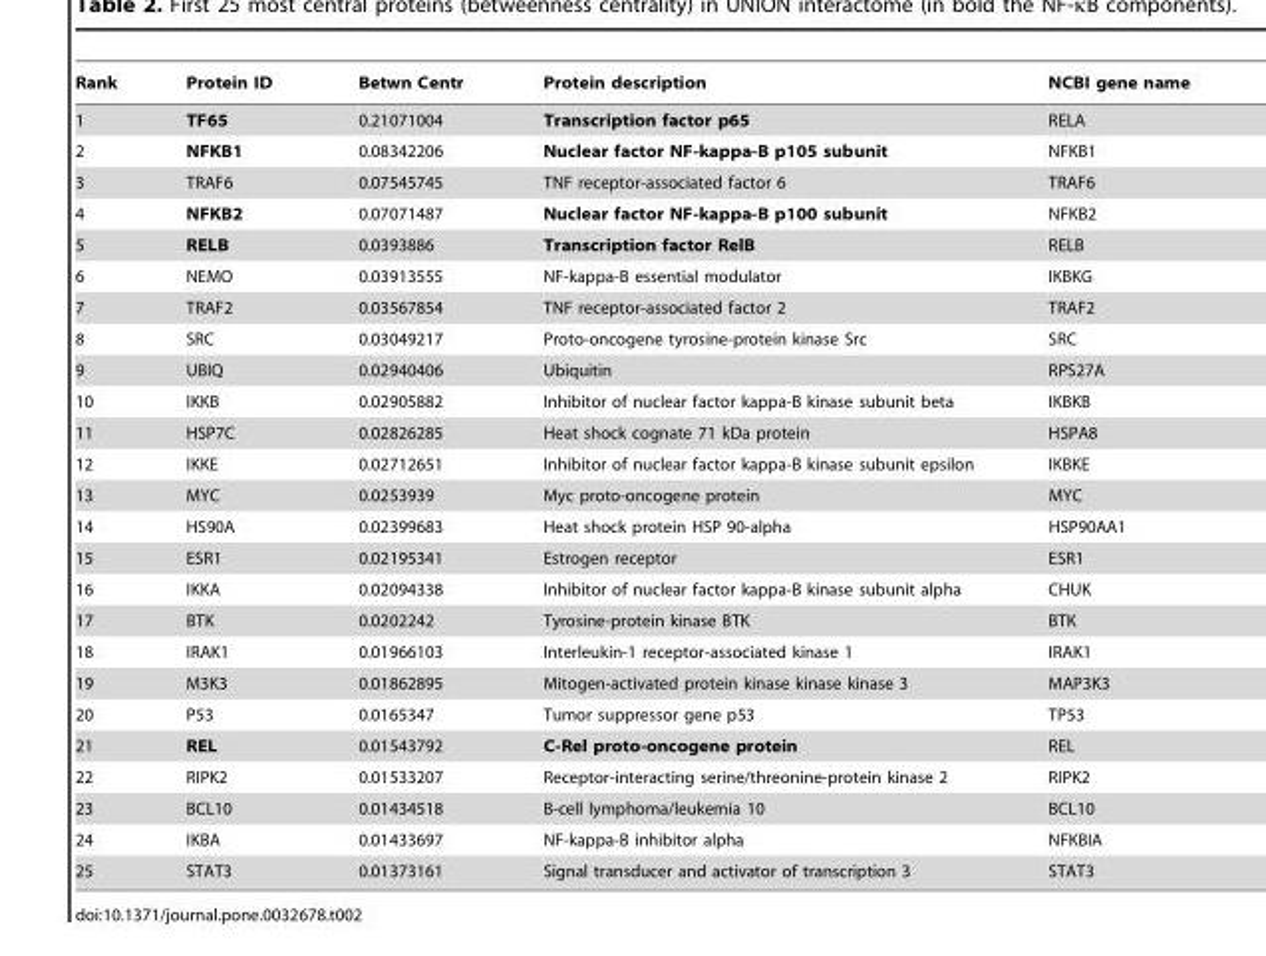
<table><thead><tr><td>Rank</td><td>Protein ID</td><td>Betwn Centr</td><td>Protein description</td><td>NCBI gene name</td></tr></thead><tbody><tr><td>1</td><td>TF65</td><td>0.21071004</td><td>Transcription factor p65</td><td>RELA</td></tr><tr><td>2</td><td>NFKB1</td><td>0.08342206</td><td>Nuclear factor NF-kappa-B p105 subunit</td><td>NFKB1</td></tr><tr><td>3</td><td>TRAF6</td><td>0.07545745</td><td>TNF receptor-associated factor 6</td><td>TRAF6</td></tr><tr><td>4</td><td>NFKB2</td><td>0.07071487</td><td>Nuclear factor NF-kappa-B p100 subunit</td><td>NFKB2</td></tr><tr><td>5</td><td>RELB</td><td>0.0393886</td><td>Transcription factor RelB</td><td>RELB</td></tr><tr><td>6</td><td>NEMO</td><td>0.03913555</td><td>NF-kappa-B essential modulator</td><td>IKBKG</td></tr><tr><td>7</td><td>TRAF2</td><td>0.03567854</td><td>TNF receptor-associated factor 2</td><td>TRAF2</td></tr><tr><td>8</td><td>SRC</td><td>0.03049217</td><td>Proto-oncogene tyrosine-protein kinase Src</td><td>SRC</td></tr><tr><td>9</td><td>UBIQ</td><td>0.02940406</td><td>Ubiquitin</td><td>RPS27A</td></tr><tr><td>10</td><td>IKKB</td><td>0.02905882</td><td>Inhibitor of nuclear factor kappa-B kinase subunit beta</td><td>IKBKB</td></tr><tr><td>11</td><td>HSP7C</td><td>0.02826285</td><td>Heat shock cognate 71 kDa protein</td><td>HSPA8</td></tr><tr><td>12</td><td>IKKE</td><td>0.02712651</td><td>Inhibitor of nuclear factor kappa-B kinase subunit epsilon</td><td>IKBKE</td></tr><tr><td>13</td><td>MYC</td><td>0.0253939</td><td>Myc proto-oncogene protein</td><td>MYC</td></tr><tr><td>14</td><td>HS90A</td><td>0.02399683</td><td>Heat shock protein HSP 90-alpha</td><td>HSP90AA1</td></tr><tr><td>15</td><td>ESR1</td><td>0.02195341</td><td>Estrogen receptor</td><td>ESR1</td></tr><tr><td>16</td><td>IKKA</td><td>0.02094338</td><td>Inhibitor of nuclear factor kappa-B kinase subunit alpha</td><td>CHUK</td></tr><tr><td>17</td><td>BTK</td><td>0.0202242</td><td>Tyrosine-protein kinase BTK</td><td>BTK</td></tr><tr><td>18</td><td>IRAK1</td><td>0.01966103</td><td>Interleukin-1 receptor-associated kinase 1</td><td>IRAK1</td></tr><tr><td>19</td><td>M3K3</td><td>0.01862895</td><td>Mitogen-activated protein kinase kinase kinase 3</td><td>MAP3K3</td></tr><tr><td>20</td><td>P53</td><td>0.0165347</td><td>Tumor suppressor gene p53</td><td>TP53</td></tr><tr><td>21</td><td>REL</td><td>0.01543792</td><td>C-Rel proto-oncogene protein</td><td>REL</td></tr><tr><td>22</td><td>RIPK2</td><td>0.01533207</td><td>Receptor-interacting serine/threonine-protein kinase 2</td><td>RIPK2</td></tr><tr><td>23</td><td>BCL10</td><td>0.01434518</td><td>B-cell lymphoma/leukemia 10</td><td>BCL10</td></tr><tr><td>24</td><td>IKBA</td><td>0.01433697</td><td>NF-kappa-B inhibitor alpha</td><td>NFKBIA</td></tr><tr><td>25</td><td>STAT3</td><td>0.01373161</td><td>Signal transducer and activator of transcription 3</td><td>STAT3</td></tr></tbody></table>